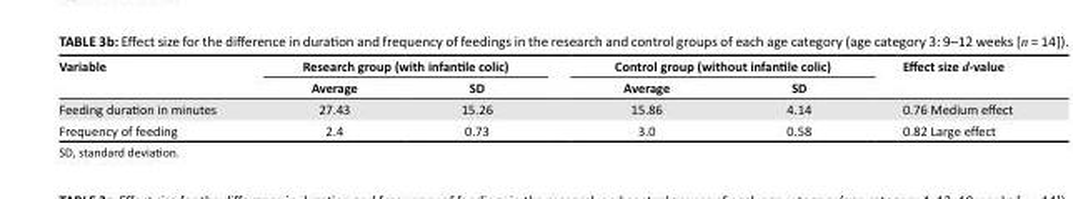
<table><thead><tr><td rowspan="2">Variable</td><td colspan="2">Research group (with infantile colic)</td><td colspan="2">Control group (without infantile colic)</td><td rowspan="2">Effect size d-value</td></tr><tr><td>Average</td><td>SD</td><td>Average</td><td>SD</td></tr></thead><tbody><tr><td>Feeding duration in minutes</td><td>27.43</td><td>15.26</td><td>15.86</td><td>4.14</td><td>0.76 Medium effect</td></tr><tr><td>Frequency of feeding</td><td>2.4</td><td>0.73</td><td>3.0</td><td>0.58</td><td>0.82 Large effect</td></tr></tbody></table>